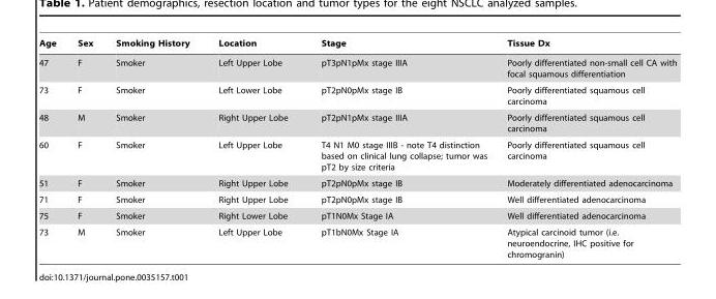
<table><thead><tr><td>Age</td><td>Sex</td><td>Smoking History</td><td>Location</td><td>Stage</td><td>Tissue Dx</td></tr></thead><tbody><tr><td>47</td><td>F</td><td>Smoker</td><td>Left Upper Lobe</td><td>pT3pN1pMx stage IIIA</td><td>Poorly differentiated non-small cell CA with focal squamous differentiation</td></tr><tr><td>73</td><td>F</td><td>Smoker</td><td>Left Lower Lobe</td><td>pT2pN0pMx stage IB</td><td>Poorly differentiated squamous cell carcinoma</td></tr><tr><td>48</td><td>M</td><td>Smoker</td><td>Right Upper Lobe</td><td>pT2pN1pMx stage IIIA</td><td>Poorly differentiated squamous cell carcinoma</td></tr><tr><td>60</td><td>F</td><td>Smoker</td><td>Left Upper Lobe</td><td>T4 N1 M0 stage IIIB - note T4 distinction based on clinical lung collapse; tumor was pT2 by size criteria</td><td>Poorly differentiated squamous cell carcinoma</td></tr><tr><td>51</td><td>F</td><td>Smoker</td><td>Right Upper Lobe</td><td>pT2pN0pMx stage IB</td><td>Moderately differentiated adenocarcinoma</td></tr><tr><td>71</td><td>F</td><td>Smoker</td><td>Right Upper Lobe</td><td>pT2pN0pMx stage IB</td><td>Well differentiated adenocarcinoma</td></tr><tr><td>75</td><td>F</td><td>Smoker</td><td>Right Lower Lobe</td><td>pT1N0Mx Stage IA</td><td>Well differentiated adenocarcinoma</td></tr><tr><td>73</td><td>M</td><td>Smoker</td><td>Left Upper Lobe</td><td>pT1bN0Mx Stage IA</td><td>Atypical carcinoid tumor (i.e. neuroendocrine, IHC positive for chromogranin)</td></tr></tbody></table>